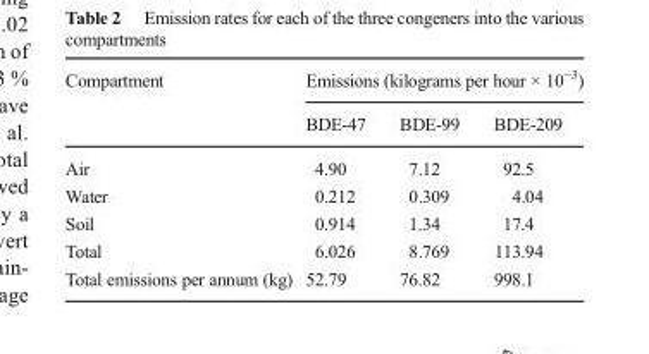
<table><thead><tr><td rowspan="2">Compartment</td><td colspan="3">Emissions (kilograms per hour × 10<sup>−3</sup>)</td></tr><tr><td>BDE-47</td><td>BDE-99</td><td>BDE-209</td></tr></thead><tbody><tr><td>Air</td><td>4.90</td><td>7.12</td><td>92.5</td></tr><tr><td>Water</td><td>0.212</td><td>0.309</td><td>4.04</td></tr><tr><td>Soil</td><td>0.914</td><td>1.34</td><td>17.4</td></tr><tr><td>Total</td><td>6.026</td><td>8.769</td><td>113.94</td></tr><tr><td>Total emissions per annum (kg)</td><td>52.79</td><td>76.82</td><td>998.1</td></tr></tbody></table>